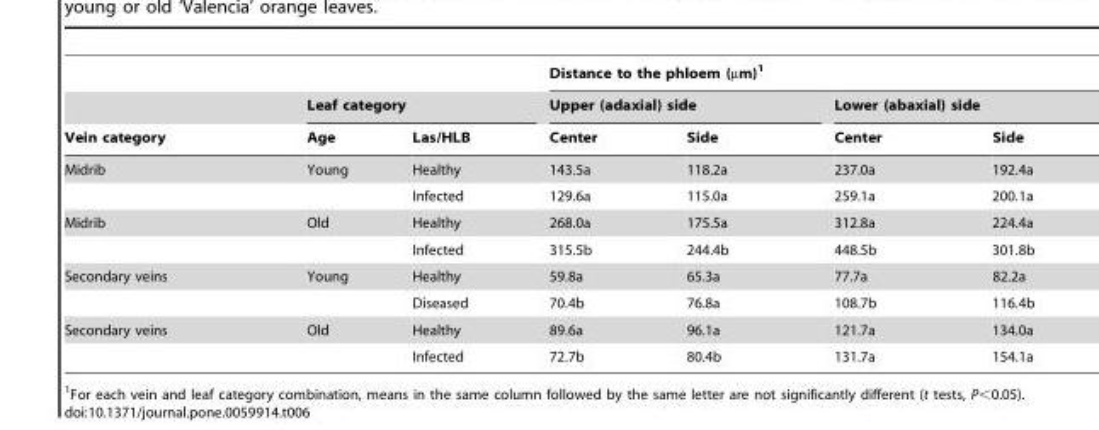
<table><thead><tr><td rowspan="3">Vein category</td><td></td><td></td><td colspan="4">Distance to the phloem (µm)<sup>1</sup></td></tr><tr><td colspan="2">Leaf category</td><td colspan="2">Upper (adaxial) side</td><td colspan="2">Lower (abaxial) side</td></tr><tr><td>Age</td><td>Las/HLB</td><td>Center</td><td>Side</td><td>Center</td><td>Side</td></tr></thead><tbody><tr><td rowspan="2">Midrib</td><td>Young</td><td>Healthy</td><td>143.5a</td><td>118.2a</td><td>237.0a</td><td>192.4a</td></tr><tr><td></td><td>Infected</td><td>129.6a</td><td>115.0a</td><td>259.1a</td><td>200.1a</td></tr><tr><td rowspan="2">Midrib</td><td>Old</td><td>Healthy</td><td>268.0a</td><td>175.5a</td><td>312.8a</td><td>224.4a</td></tr><tr><td></td><td>Infected</td><td>315.5b</td><td>244.4b</td><td>448.5b</td><td>301.8b</td></tr><tr><td rowspan="2">Secondary veins</td><td>Young</td><td>Healthy</td><td>59.8a</td><td>65.3a</td><td>77.7a</td><td>82.2a</td></tr><tr><td></td><td>Diseased</td><td>70.4b</td><td>76.8a</td><td>108.7b</td><td>116.4b</td></tr><tr><td rowspan="2">Secondary veins</td><td>Old</td><td>Healthy</td><td>89.6a</td><td>96.1a</td><td>121.7a</td><td>134.0a</td></tr><tr><td></td><td>Infected</td><td>72.7b</td><td>80.4b</td><td>131.7a</td><td>154.1a</td></tr></tbody></table>